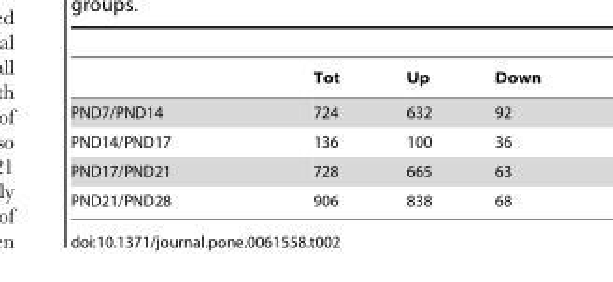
<table><thead><tr><td></td><td>Tot</td><td>Up</td><td>Down</td></tr></thead><tbody><tr><td>PND7/PND14</td><td>724</td><td>632</td><td>92</td></tr><tr><td>PND14/PND17</td><td>136</td><td>100</td><td>36</td></tr><tr><td>PND17/PND21</td><td>728</td><td>665</td><td>63</td></tr><tr><td>PND21/PND28</td><td>906</td><td>838</td><td>68</td></tr></tbody></table>